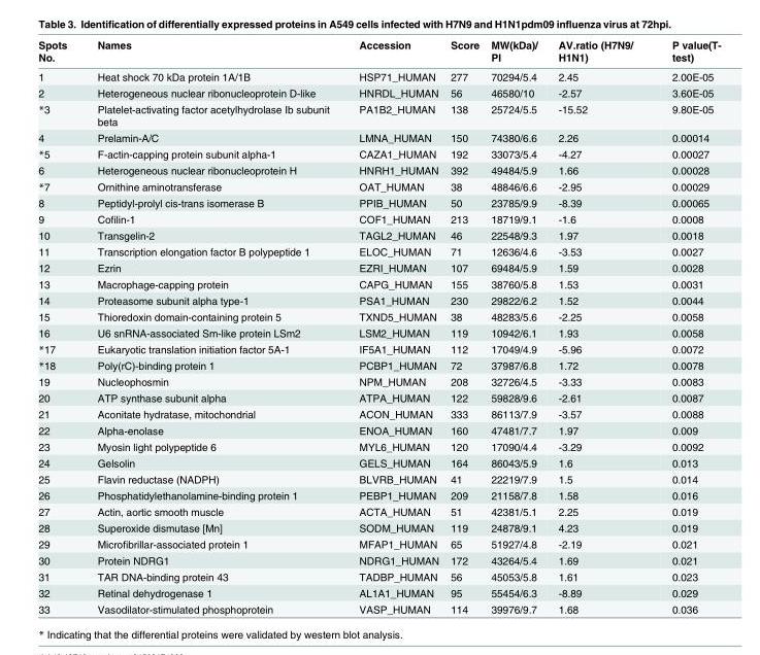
<table><thead><tr><td>Spots No.</td><td>Names</td><td>Accession</td><td>Score</td><td>MW(kDa)/ PI</td><td>AV.ratio (H7N9/ H1N1)</td><td>P value(T- test)</td></tr></thead><tbody><tr><td>1</td><td>Heat shock 70 kDa protein 1A/1B</td><td>HSP71_HUMAN</td><td>277</td><td>70294/5.4</td><td>2.45</td><td>2.00E-05</td></tr><tr><td>2</td><td>Heterogeneous nuclear ribonucleoprotein D-like</td><td>HNRDL_HUMAN</td><td>56</td><td>46580/10</td><td>-2.57</td><td>3.60E-05</td></tr><tr><td>*3</td><td>Platelet-activating factor acetylhydrolase Ib subunit beta</td><td>PA1B2_HUMAN</td><td>138</td><td>25724/5.5</td><td>-15.52</td><td>9.80E-05</td></tr><tr><td>4</td><td>Prelamin-A/C</td><td>LMNA_HUMAN</td><td>150</td><td>74380/6.6</td><td>2.26</td><td>0.00014</td></tr><tr><td>*5</td><td>F-actin-capping protein subunit alpha-1</td><td>CAZA1_HUMAN</td><td>192</td><td>33073/5.4</td><td>-4.27</td><td>0.00027</td></tr><tr><td>6</td><td>Heterogeneous nuclear ribonucleoprotein H</td><td>HNRH1_HUMAN</td><td>392</td><td>49484/5.9</td><td>1.66</td><td>0.00028</td></tr><tr><td>*7</td><td>Ornithine aminotransferase</td><td>OAT_HUMAN</td><td>38</td><td>48846/6.6</td><td>-2.95</td><td>0.00029</td></tr><tr><td>8</td><td>Peptidyl-prolyl cis-trans isomerase B</td><td>PPIB_HUMAN</td><td>50</td><td>23785/9.9</td><td>-8.39</td><td>0.00065</td></tr><tr><td>9</td><td>Cofilin-1</td><td>COF1_HUMAN</td><td>213</td><td>18719/9.1</td><td>-1.6</td><td>0.0008</td></tr><tr><td>10</td><td>Transgelin-2</td><td>TAGL2_HUMAN</td><td>46</td><td>22548/9.3</td><td>1.97</td><td>0.0018</td></tr><tr><td>11</td><td>Transcription elongation factor B polypeptide 1</td><td>ELOC_HUMAN</td><td>71</td><td>12636/4.6</td><td>-3.53</td><td>0.0027</td></tr><tr><td>12</td><td>Ezrin</td><td>EZRI_HUMAN</td><td>107</td><td>69484/5.9</td><td>1.59</td><td>0.0028</td></tr><tr><td>13</td><td>Macrophage-capping protein</td><td>CAPG_HUMAN</td><td>155</td><td>38760/5.8</td><td>1.53</td><td>0.0031</td></tr><tr><td>14</td><td>Proteasome subunit alpha type-1</td><td>PSA1_HUMAN</td><td>230</td><td>29822/6.2</td><td>1.52</td><td>0.0044</td></tr><tr><td>15</td><td>Thioredoxin domain-containing protein 5</td><td>TXND5_HUMAN</td><td>38</td><td>48283/5.6</td><td>-2.25</td><td>0.0058</td></tr><tr><td>16</td><td>U6 snRNA-associated Sm-like protein LSm2</td><td>LSM2_HUMAN</td><td>119</td><td>10942/6.1</td><td>1.93</td><td>0.0058</td></tr><tr><td>*17</td><td>Eukaryotic translation initiation factor 5A-1</td><td>IF5A1_HUMAN</td><td>112</td><td>17049/4.9</td><td>-5.96</td><td>0.0072</td></tr><tr><td>*18</td><td>Poly(rC)-binding protein 1</td><td>PCBP1_HUMAN</td><td>72</td><td>37987/6.8</td><td>1.72</td><td>0.0078</td></tr><tr><td>19</td><td>Nucleophosmin</td><td>NPM_HUMAN</td><td>208</td><td>32726/4.5</td><td>-3.33</td><td>0.0083</td></tr><tr><td>20</td><td>ATP synthase subunit alpha</td><td>ATPA_HUMAN</td><td>122</td><td>59828/9.6</td><td>-2.61</td><td>0.0087</td></tr><tr><td>21</td><td>Aconitate hydratase, mitochondrial</td><td>ACON_HUMAN</td><td>333</td><td>86113/7.9</td><td>-3.57</td><td>0.0088</td></tr><tr><td>22</td><td>Alpha-enolase</td><td>ENOA_HUMAN</td><td>160</td><td>47481/7.7</td><td>1.97</td><td>0.009</td></tr><tr><td>23</td><td>Myosin light polypeptide 6</td><td>MYL6_HUMAN</td><td>120</td><td>17090/4.4</td><td>-3.29</td><td>0.0092</td></tr><tr><td>24</td><td>Gelsolin</td><td>GELS_HUMAN</td><td>164</td><td>86043/5.9</td><td>1.6</td><td>0.013</td></tr><tr><td>25</td><td>Flavin reductase (NADPH)</td><td>BLVRB_HUMAN</td><td>41</td><td>22219/7.9</td><td>1.5</td><td>0.014</td></tr><tr><td>26</td><td>Phosphatidylethanolamine-binding protein 1</td><td>PEBP1_HUMAN</td><td>209</td><td>21158/7.8</td><td>1.58</td><td>0.016</td></tr><tr><td>27</td><td>Actin, aortic smooth muscle</td><td>ACTA_HUMAN</td><td>51</td><td>42381/5.1</td><td>2.25</td><td>0.019</td></tr><tr><td>28</td><td>Superoxide dismutase [Mn]</td><td>SODM_HUMAN</td><td>119</td><td>24878/9.1</td><td>4.23</td><td>0.019</td></tr><tr><td>29</td><td>Microfibrillar-associated protein 1</td><td>MFAP1_HUMAN</td><td>65</td><td>51927/4.8</td><td>-2.19</td><td>0.021</td></tr><tr><td>30</td><td>Protein NDRG1</td><td>NDRG1_HUMAN</td><td>172</td><td>43264/5.4</td><td>1.69</td><td>0.021</td></tr><tr><td>31</td><td>TAR DNA-binding protein 43</td><td>TADBP_HUMAN</td><td>56</td><td>45053/5.8</td><td>1.61</td><td>0.023</td></tr><tr><td>32</td><td>Retinal dehydrogenase 1</td><td>AL1A1_HUMAN</td><td>95</td><td>55454/6.3</td><td>-8.89</td><td>0.029</td></tr><tr><td>33</td><td>Vasodilator-stimulated phosphoprotein</td><td>VASP_HUMAN</td><td>114</td><td>39976/9.7</td><td>1.68</td><td>0.036</td></tr></tbody></table>